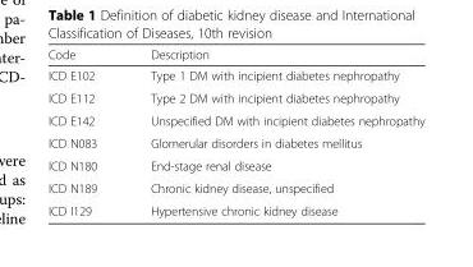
<table><thead><tr><td>Code</td><td>Description</td></tr></thead><tbody><tr><td>ICD E102</td><td>Type 1 DM with incipient diabetes nephropathy</td></tr><tr><td>ICD E112</td><td>Type 2 DM with incipient diabetes nephropathy</td></tr><tr><td>ICD E142</td><td>Unspecified DM with incipient diabetes nephropathy</td></tr><tr><td>ICD N083</td><td>Glomerular disorders in diabetes mellitus</td></tr><tr><td>ICD N180</td><td>End-stage renal disease</td></tr><tr><td>ICD N189</td><td>Chronic kidney disease, unspecified</td></tr><tr><td>ICD I129</td><td>Hypertensive chronic kidney disease</td></tr></tbody></table>